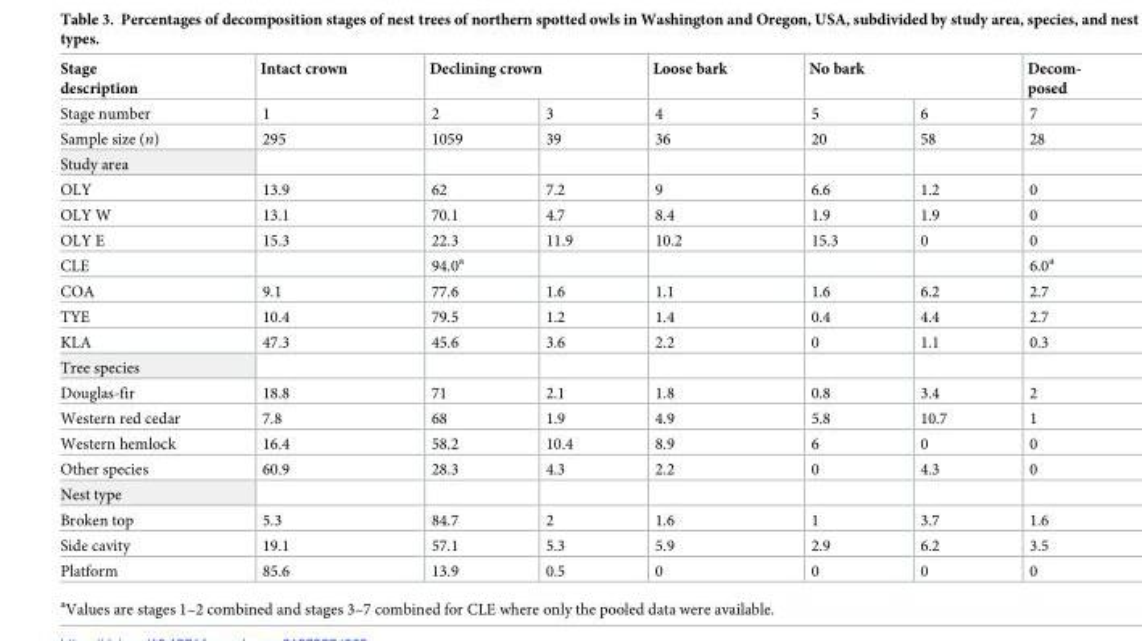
<table><thead><tr><td rowspan="2">Stage description Stage number</td><td rowspan="2">Intact crown 1</td><td colspan="2">Declining crown</td><td rowspan="2">Loose bark 4</td><td colspan="2">No bark</td><td rowspan="2">Decom- posed 7</td></tr><tr><td>2</td><td>3</td><td>5</td><td>6</td></tr></thead><tbody><tr><td>Sample size (n)</td><td>295</td><td>1059</td><td>39</td><td>36</td><td>20</td><td>58</td><td>28</td></tr><tr><td colspan="8">Study area</td></tr><tr><td>OLY</td><td>13.9</td><td>62</td><td>7.2</td><td>9</td><td>6.6</td><td>1.2</td><td>0</td></tr><tr><td>OLY W</td><td>13.1</td><td>70.1</td><td>4.7</td><td>8.4</td><td>1.9</td><td>1.9</td><td>0</td></tr><tr><td>OLY E</td><td>15.3</td><td>22.3</td><td>11.9</td><td>10.2</td><td>15.3</td><td>0</td><td>0</td></tr><tr><td>CLE</td><td></td><td>94.0<sup>a</sup></td><td></td><td></td><td></td><td></td><td>6.0<sup>a</sup></td></tr><tr><td>COA</td><td>9.1</td><td>77.6</td><td>1.6</td><td>1.1</td><td>1.6</td><td>6.2</td><td>2.7</td></tr><tr><td>TYE</td><td>10.4</td><td>79.5</td><td>1.2</td><td>1.4</td><td>0.4</td><td>4.4</td><td>2.7</td></tr><tr><td>KLA</td><td>47.3</td><td>45.6</td><td>3.6</td><td>2.2</td><td>0</td><td>1.1</td><td>0.3</td></tr><tr><td colspan="8">Tree species</td></tr><tr><td>Douglas-fir</td><td>18.8</td><td>71</td><td>2.1</td><td>1.8</td><td>0.8</td><td>3.4</td><td>2</td></tr><tr><td>Western red cedar</td><td>7.8</td><td>68</td><td>1.9</td><td>4.9</td><td>5.8</td><td>10.7</td><td>1</td></tr><tr><td>Western hemlock</td><td>16.4</td><td>58.2</td><td>10.4</td><td>8.9</td><td>6</td><td>0</td><td>0</td></tr><tr><td>Other species</td><td>60.9</td><td>28.3</td><td>4.3</td><td>2.2</td><td>0</td><td>4.3</td><td>0</td></tr><tr><td colspan="8">Nest type</td></tr><tr><td>Broken top</td><td>5.3</td><td>84.7</td><td>2</td><td>1.6</td><td>1</td><td>3.7</td><td>1.6</td></tr><tr><td>Side cavity</td><td>19.1</td><td>57.1</td><td>5.3</td><td>5.9</td><td>2.9</td><td>6.2</td><td>3.5</td></tr><tr><td>Platform</td><td>85.6</td><td>13.9</td><td>0.5</td><td>0</td><td>0</td><td>0</td><td>0</td></tr></tbody></table>